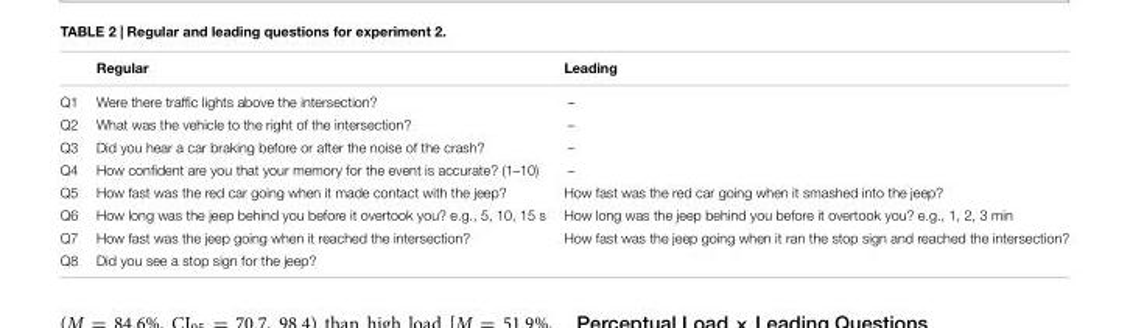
<table><thead><tr><td></td><td>Regular</td><td>Leading</td></tr></thead><tbody><tr><td>Q1</td><td>Were there traffic lights above the intersection?</td><td>–</td></tr><tr><td>Q2</td><td>What was the vehicle to the right of the intersection?</td><td>–</td></tr><tr><td>Q3</td><td>Did you hear a car braking before or after the noise of the crash?</td><td>–</td></tr><tr><td>Q4</td><td>How confident are you that your memory for the event is accurate? (1–10)</td><td>–</td></tr><tr><td>Q5</td><td>How fast was the red car going when it made contact with the jeep?</td><td>How fast was the red car going when it smashed into the jeep?</td></tr><tr><td>Q6</td><td>How long was the jeep behind you before it overtook you? e.g., 5, 10, 15 s</td><td>How long was the jeep behind you before it overtook you? e.g., 1, 2, 3 min</td></tr><tr><td>Q7</td><td>How fast was the jeep going when it reached the intersection?</td><td>How fast was the jeep going when it ran the stop sign and reached the intersection?</td></tr><tr><td>Q8</td><td>Did you see a stop sign for the jeep?</td><td></td></tr></tbody></table>